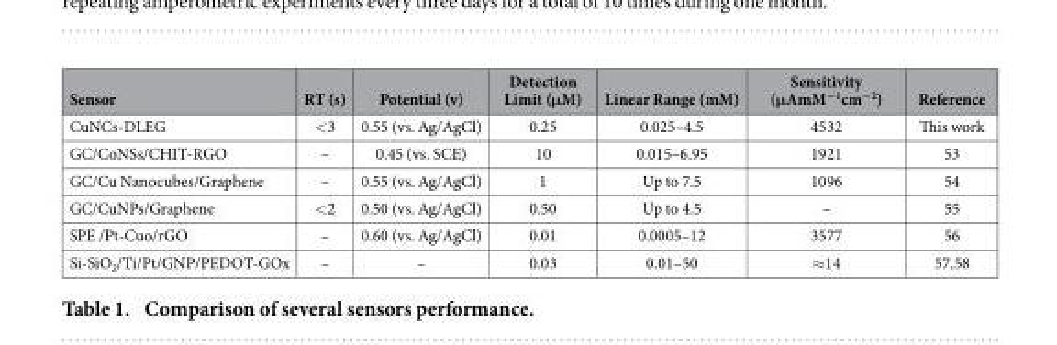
<table><thead><tr><td>Sensor</td><td>RT (s)</td><td>Potential (v)</td><td>Detection Limit (μM)</td><td>Linear Range (mM)</td><td>Sensitivity (μAmM<sup>−1</sup>cm<sup>−2</sup>)</td><td>Reference</td></tr></thead><tbody><tr><td>CuNCs-DLEG</td><td>&lt; 3</td><td>0.55 (vs. Ag/AgCl)</td><td>0.25</td><td>0.025–4.5</td><td>4532</td><td>This work</td></tr><tr><td>GC/CoNSs/CHIT-RGO</td><td>–</td><td>0.45 (vs. SCE)</td><td>10</td><td>0.015–6.95</td><td>1921</td><td>53</td></tr><tr><td>GC/Cu Nanocubes/Graphene</td><td>–</td><td>0.55 (vs. Ag/AgCl)</td><td>1</td><td>Up to 7.5</td><td>1096</td><td>54</td></tr><tr><td>GC/CuNPs/Graphene</td><td>&lt; 2</td><td>0.50 (vs. Ag/AgCl)</td><td>0.50</td><td>Up to 4.5</td><td>–</td><td>55</td></tr><tr><td>SPE /Pt-Cuo/rGO</td><td>–</td><td>0.60 (vs. Ag/AgCl)</td><td>0.01</td><td>0.0005–12</td><td>3577</td><td>56</td></tr><tr><td>Si-SiO<sub>2</sub>/Ti/Pt/GNP/PEDOT-GOx</td><td>–</td><td>–</td><td>0.03</td><td>0.01–50</td><td>≈ 14</td><td>57,58</td></tr></tbody></table>